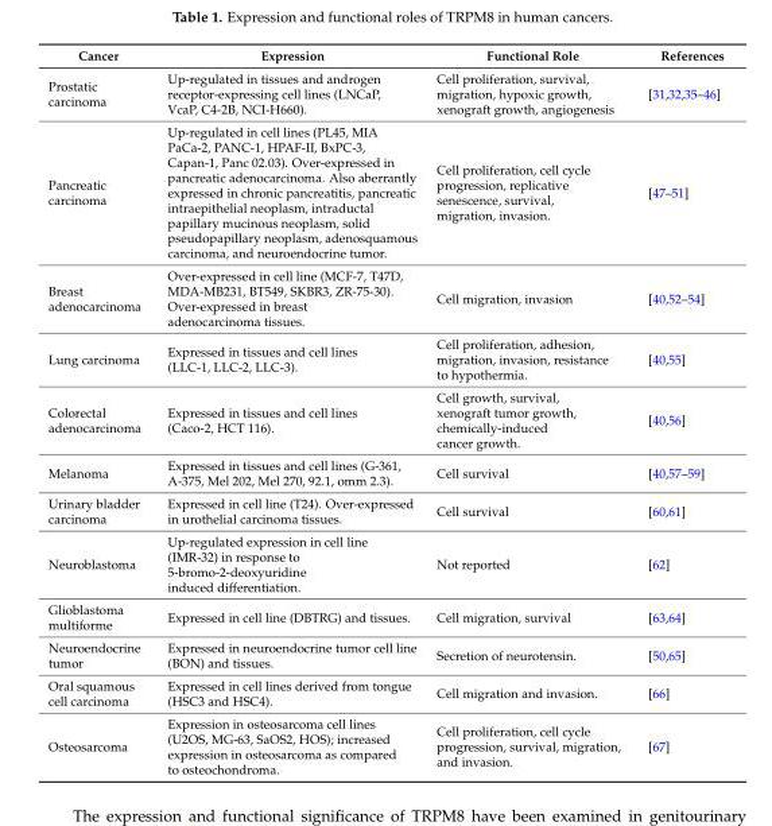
<table><thead><tr><td>Cancer</td><td>Expression</td><td>Functional Role</td><td>References</td></tr></thead><tbody><tr><td>Prostatic carcinoma</td><td>Up-regulated in tissues and androgen receptor-expressing cell lines (LNCaP, VcaP, C4-2B, NCI-H660).</td><td>Cell proliferation, survival, migration, hypoxic growth, xenograft growth, angiogenesis</td><td>[31,32,35–46]</td></tr><tr><td>Pancreatic carcinoma</td><td>Up-regulated in cell lines (PL45, MIA PaCa-2, PANC-1, HPAF-II, BxPC-3, Capan-1, Panc 02.03). Over-expressed in pancreatic adenocarcinoma. Also aberrantly expressed in chronic pancreatitis, pancreatic intraepithelial neoplasm, intraductal papillary mucinous neoplasm, solid pseudopapillary neoplasm, adenosquamous carcinoma, and neuroendocrine tumor.</td><td>Cell proliferation, cell cycle progression, replicative senescence, survival, migration, invasion.</td><td>[47–51]</td></tr><tr><td>Breast adenocarcinoma</td><td>Over-expressed in cell line (MCF-7, T47D, MDA-MB231, BT549, SKBR3, ZR-75-30). Over-expressed in breast adenocarcinoma tissues.</td><td>Cell migration, invasion</td><td>[40,52–54]</td></tr><tr><td>Lung carcinoma</td><td>Expressed in tissues and cell lines (LLC-1, LLC-2, LLC-3).</td><td>Cell proliferation, adhesion, migration, invasion, resistance to hypothermia.</td><td>[40,55]</td></tr><tr><td>Colorectal adenocarcinoma</td><td>Expressed in tissues and cell lines (Caco-2, HCT 116).</td><td>Cell growth, survival, xenograft tumor growth, chemically-induced cancer growth.</td><td>[40,56]</td></tr><tr><td>Melanoma</td><td>Expressed in tissues and cell lines (G-361, A-375, Mel 202, Mel 270, 92.1, omm 2.3).</td><td>Cell survival</td><td>[40,57–59]</td></tr><tr><td>Urinary bladder carcinoma</td><td>Expressed in cell line (T24). Over-expressed in urothelial carcinoma tissues.</td><td>Cell survival</td><td>[60,61]</td></tr><tr><td>Neuroblastoma</td><td>Up-regulated expression in cell line (IMR-32) in response to 5-bromo-2-deoxyuridine induced differentiation.</td><td>Not reported</td><td>[62]</td></tr><tr><td>Glioblastoma multiforme</td><td>Expressed in cell line (DBTRG) and tissues.</td><td>Cell migration, survival</td><td>[63,64]</td></tr><tr><td>Neuroendocrine tumor</td><td>Expressed in neuroendocrine tumor cell line (BON) and tissues.</td><td>Secretion of neurotensin.</td><td>[50,65]</td></tr><tr><td>Oral squamous cell carcinoma</td><td>Expressed in cell lines derived from tongue (HSC3 and HSC4).</td><td>Cell migration and invasion.</td><td>[66]</td></tr><tr><td>Osteosarcoma</td><td>Expression in osteosarcoma cell lines (U2OS, MG-63, SaOS2, HOS); increased expression in osteosarcoma as compared to osteochondroma.</td><td>Cell proliferation, cell cycle progression, survival, migration, and invasion.</td><td>[67]</td></tr></tbody></table>